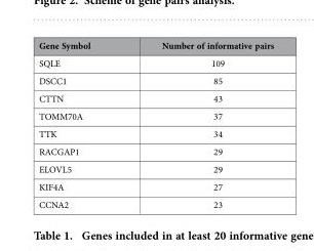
<table><thead><tr><td>Gene Symbol</td><td>Number of informative pairs</td></tr></thead><tbody><tr><td>SQLE</td><td>109</td></tr><tr><td>DSCC1</td><td>85</td></tr><tr><td>CTTN</td><td>43</td></tr><tr><td>TOMM70A</td><td>37</td></tr><tr><td>TTK</td><td>34</td></tr><tr><td>RACGAP1</td><td>29</td></tr><tr><td>ELOVL5</td><td>29</td></tr><tr><td>KIF4A</td><td>27</td></tr><tr><td>CCNA2</td><td>23</td></tr></tbody></table>